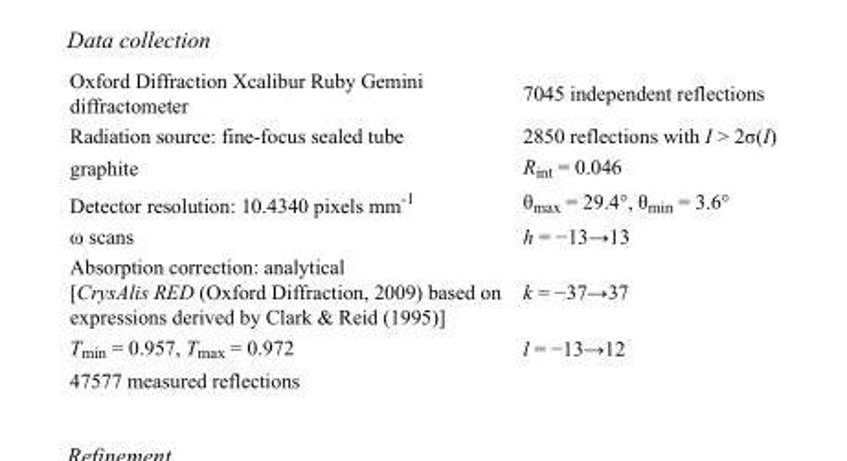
<table><tbody><tr><td>Oxford Diffraction Xcalibur Ruby Gemini diffractometer</td><td>7045 independent reflections</td></tr><tr><td>Radiation source: fine-focus sealed tube</td><td>2850 reflections with I &gt; 2σ(I)</td></tr><tr><td>graphite</td><td>R<sub>int</sub> = 0.046</td></tr><tr><td>Detector resolution: 10.4340 pixels mm<sup>-1</sup></td><td>θ<sub>max</sub> = 29.4°, θ<sub>min</sub> = 3.6°</td></tr><tr><td>ω scans</td><td>h = −13→13</td></tr><tr><td>Absorption correction: analytical [CrysAlis RED (Oxford Diffraction, 2009) based on expressions derived by Clark &amp; Reid (1995)]</td><td>k = −37→37</td></tr><tr><td>T<sub>min</sub> = 0.957, T<sub>max</sub> = 0.972</td><td>l = −13→12</td></tr><tr><td>47577 measured reflections</td><td></td></tr></tbody></table>